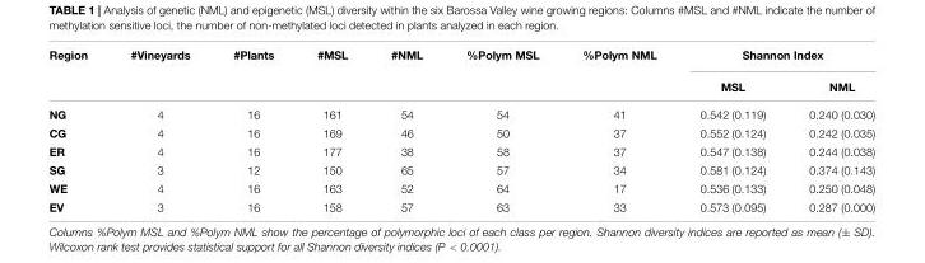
<table><thead><tr><td rowspan="2">Region</td><td rowspan="2">#Vineyards</td><td rowspan="2">#Plants</td><td rowspan="2">#MSL</td><td rowspan="2">#NML</td><td rowspan="2">%Polym MSL</td><td rowspan="2">%Polym NML</td><td colspan="2">Shannon Index</td></tr><tr><td>MSL</td><td>NML</td></tr></thead><tbody><tr><td>NG</td><td>4</td><td>16</td><td>161</td><td>54</td><td>54</td><td>41</td><td>0.542 (0.119)</td><td>0.240 (0.030)</td></tr><tr><td>CG</td><td>4</td><td>16</td><td>169</td><td>46</td><td>50</td><td>37</td><td>0.552 (0.124)</td><td>0.242 (0.035)</td></tr><tr><td>ER</td><td>4</td><td>16</td><td>177</td><td>38</td><td>58</td><td>37</td><td>0.547 (0.138)</td><td>0.244 (0.038)</td></tr><tr><td>SG</td><td>3</td><td>12</td><td>150</td><td>65</td><td>57</td><td>34</td><td>0.581 (0.124)</td><td>0.374 (0.143)</td></tr><tr><td>WE</td><td>4</td><td>16</td><td>163</td><td>52</td><td>64</td><td>17</td><td>0.536 (0.133)</td><td>0.250 (0.048)</td></tr><tr><td>EV</td><td>3</td><td>16</td><td>158</td><td>57</td><td>63</td><td>33</td><td>0.573 (0.095)</td><td>0.287 (0.000)</td></tr></tbody></table>